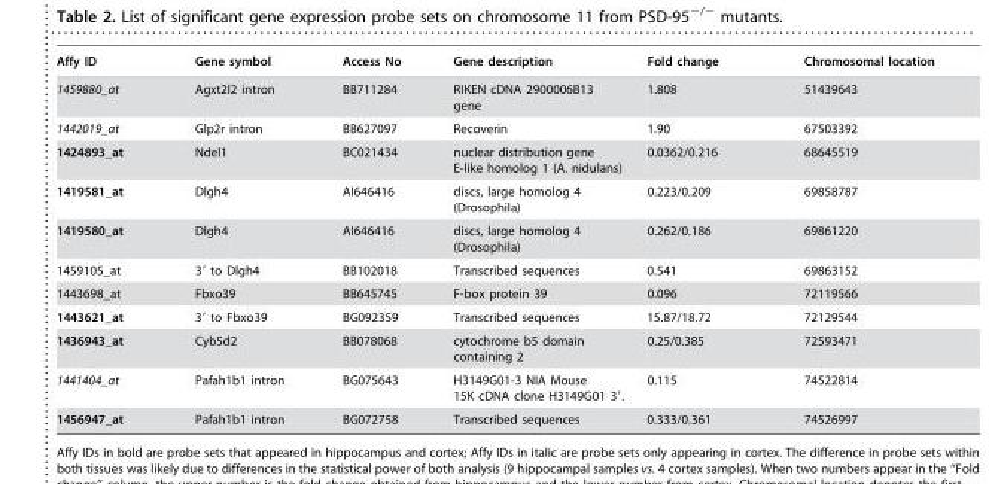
<table><thead><tr><td>Affy ID</td><td>Gene symbol</td><td>Access No</td><td>Gene description</td><td>Fold change</td><td>Chromosomal location</td></tr></thead><tbody><tr><td>1459880_at</td><td>Agxt2l2 intron</td><td>BB711284</td><td>RIKEN cDNA 2900006B13 gene</td><td>1.808</td><td>51439643</td></tr><tr><td>1442019_at</td><td>Glp2r intron</td><td>BB627097</td><td>Recoverin</td><td>1.90</td><td>67503392</td></tr><tr><td>1424893_at</td><td>Ndel1</td><td>BC021434</td><td>nuclear distribution gene E-like homolog 1 (A. nidulans)</td><td>0.0362/0.216</td><td>68645519</td></tr><tr><td>1419581_at</td><td>Dlgh4</td><td>AI646416</td><td>discs, large homolog 4 (Drosophila)</td><td>0.223/0.209</td><td>69858787</td></tr><tr><td>1419580_at</td><td>Dlgh4</td><td>AI646416</td><td>discs, large homolog 4 (Drosophila)</td><td>0.262/0.186</td><td>69861220</td></tr><tr><td>1459105_at</td><td>3′ to Dlgh4</td><td>BB102018</td><td>Transcribed sequences</td><td>0.541</td><td>69863152</td></tr><tr><td>1443698_at</td><td>Fbxo39</td><td>BB645745</td><td>F-box protein 39</td><td>0.096</td><td>72119566</td></tr><tr><td>1443621_at</td><td>3′ to Fbxo39</td><td>BG092359</td><td>Transcribed sequences</td><td>15.87/18.72</td><td>72129544</td></tr><tr><td>1436943_at</td><td>Cyb5d2</td><td>BB078068</td><td>cytochrome b5 domain containing 2</td><td>0.25/0.385</td><td>72593471</td></tr><tr><td>1441404_at</td><td>Pafah1b1 intron</td><td>BG075643</td><td>H3149G01-3 NIA Mouse 15K cDNA clone H3149G01 3′.</td><td>0.115</td><td>74522814</td></tr><tr><td>1456947_at</td><td>Pafah1b1 intron</td><td>BG072758</td><td>Transcribed sequences</td><td>0.333/0.361</td><td>74526997</td></tr></tbody></table>